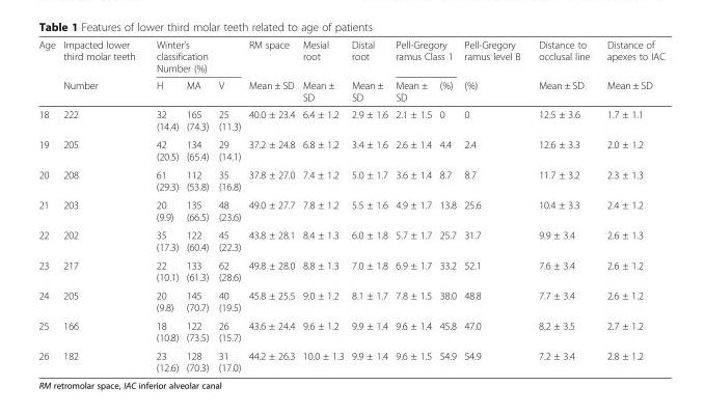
<table><thead><tr><td rowspan="2">Age</td><td rowspan="2">Impacted lower third molar teeth Number</td><td colspan="3">Winter’s classification Number (%)</td><td rowspan="2">RM space Mean ± SD</td><td rowspan="2">Mesial root Mean ± SD</td><td rowspan="2">Distal root Mean ± SD</td><td colspan="2">Pell-Gregory ramus Class 1</td><td rowspan="2">Pell-Gregory ramus level B (%)</td><td rowspan="2">Distance to occlusal line Mean ± SD</td><td rowspan="2">Distance of apexes to IAC Mean ± SD</td></tr><tr><td>H</td><td>MA</td><td>V</td><td>Mean ± SD</td><td>(%)</td></tr></thead><tbody><tr><td>18</td><td>222</td><td>32 (14.4)</td><td>165 (74.3)</td><td>25 (11.3)</td><td>40.0 ± 23.4</td><td>6.4 ± 1.2</td><td>2.9 ± 1.6</td><td>2.1 ± 1.5</td><td>0</td><td>0</td><td>12.5 ± 3.6</td><td>1.7 ± 1.1</td></tr><tr><td>19</td><td>205</td><td>42 (20.5)</td><td>134 (65.4)</td><td>29 (14.1)</td><td>37.2 ± 24.8</td><td>6.8 ± 1.2</td><td>3.4 ± 1.6</td><td>2.6 ± 1.4</td><td>4.4</td><td>2.4</td><td>12.6 ± 3.3</td><td>2.0 ± 1.2</td></tr><tr><td>20</td><td>208</td><td>61 (29.3)</td><td>112 (53.8)</td><td>35 (16.8)</td><td>37.8 ± 27.0</td><td>7.4 ± 1.2</td><td>5.0 ± 1.7</td><td>3.6 ± 1.4</td><td>8.7</td><td>8.7</td><td>11.7 ± 3.2</td><td>2.3 ± 1.3</td></tr><tr><td>21</td><td>203</td><td>20 (9.9)</td><td>135 (66.5)</td><td>48 (23.6)</td><td>49.0 ± 27.7</td><td>7.8 ± 1.2</td><td>5.5 ± 1.6</td><td>4.9 ± 1.7</td><td>13.8</td><td>25.6</td><td>10.4 ± 3.3</td><td>2.4 ± 1.2</td></tr><tr><td>22</td><td>202</td><td>35 (17.3)</td><td>122 (60.4)</td><td>45 (22.3)</td><td>43.8 ± 28.1</td><td>8.4 ± 1.3</td><td>6.0 ± 1.8</td><td>5.7 ± 1.7</td><td>25.7</td><td>31.7</td><td>9.9 ± 3.4</td><td>2.6 ± 1.3</td></tr><tr><td>23</td><td>217</td><td>22 (10.1)</td><td>133 (61.3)</td><td>62 (28.6)</td><td>49.8 ± 28.0</td><td>8.8 ± 1.3</td><td>7.0 ± 1.8</td><td>6.9 ± 1.7</td><td>33.2</td><td>52.1</td><td>7.6 ± 3.4</td><td>2.6 ± 1.2</td></tr><tr><td>24</td><td>205</td><td>20 (9.8)</td><td>145 (70.7)</td><td>40 (19.5)</td><td>45.8 ± 25.5</td><td>9.0 ± 1.2</td><td>8.1 ± 1.7</td><td>7.8 ± 1.5</td><td>38.0</td><td>48.8</td><td>7.7 ± 3.4</td><td>2.6 ± 1.2</td></tr><tr><td>25</td><td>166</td><td>18 (10.8)</td><td>122 (73.5)</td><td>26 (15.7)</td><td>43.6 ± 24.4</td><td>9.6 ± 1.2</td><td>9.9 ± 1.4</td><td>9.6 ± 1.4</td><td>45.8</td><td>47.0</td><td>8.2 ± 3.5</td><td>2.7 ± 1.2</td></tr><tr><td>26</td><td>182</td><td>23 (12.6)</td><td>128 (70.3)</td><td>31 (17.0)</td><td>44.2 ± 26.3</td><td>10.0 ± 1.3</td><td>9.9 ± 1.4</td><td>9.6 ± 1.5</td><td>54.9</td><td>54.9</td><td>7.2 ± 3.4</td><td>2.8 ± 1.2</td></tr></tbody></table>